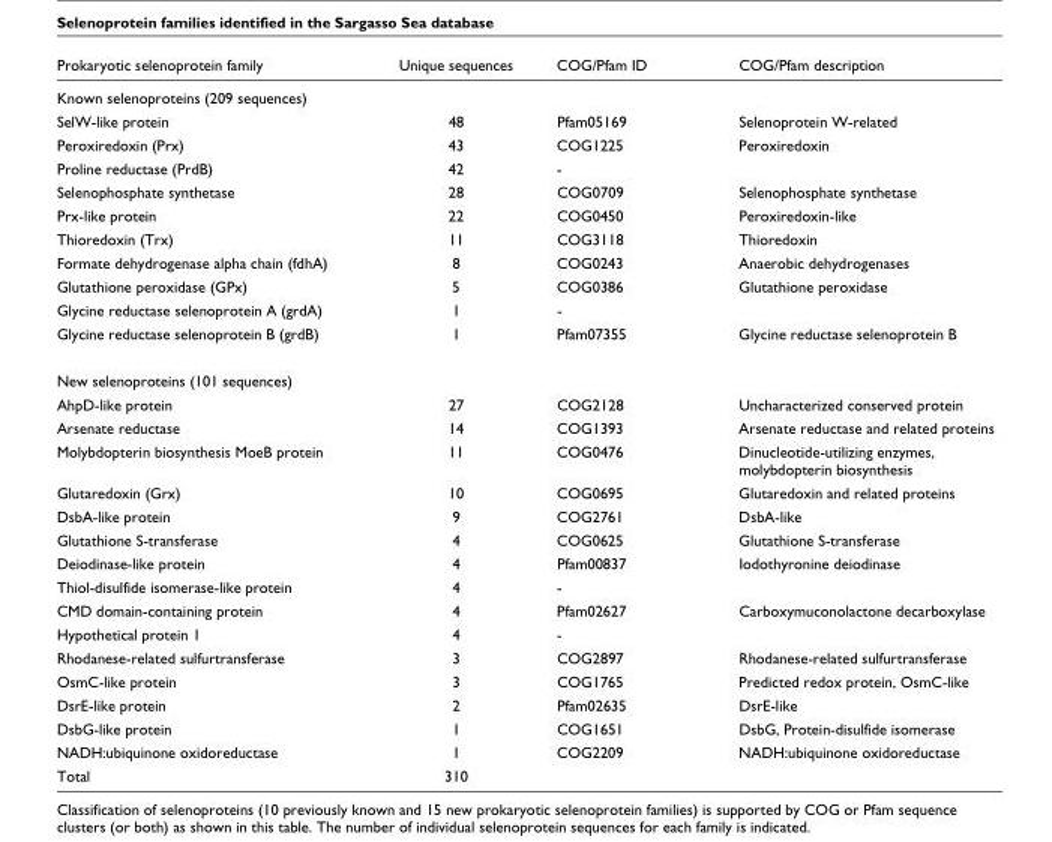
<table><thead><tr><td>Prokaryotic selenoprotein family</td><td>Unique sequences</td><td>COG/Pfam ID</td><td>COG/Pfam description</td></tr></thead><tbody><tr><td colspan="4">Known selenoproteins (209 sequences)</td></tr><tr><td>SelW-like protein</td><td>48</td><td>Pfam05169</td><td>Selenoprotein W-related</td></tr><tr><td>Peroxiredoxin (Prx)</td><td>43</td><td>COG1225</td><td>Peroxiredoxin</td></tr><tr><td>Proline reductase (PrdB)</td><td>42</td><td>-</td><td></td></tr><tr><td>Selenophosphate synthetase</td><td>28</td><td>COG0709</td><td>Selenophosphate synthetase</td></tr><tr><td>Prx-like protein</td><td>22</td><td>COG0450</td><td>Peroxiredoxin-like</td></tr><tr><td>Thioredoxin (Trx)</td><td>11</td><td>COG3118</td><td>Thioredoxin</td></tr><tr><td>Formate dehydrogenase alpha chain (fdhA)</td><td>8</td><td>COG0243</td><td>Anaerobic dehydrogenases</td></tr><tr><td>Glutathione peroxidase (GPx)</td><td>5</td><td>COG0386</td><td>Glutathione peroxidase</td></tr><tr><td>Glycine reductase selenoprotein A (grdA)</td><td>1</td><td>-</td><td></td></tr><tr><td>Glycine reductase selenoprotein B (grdB)</td><td>1</td><td>Pfam07355</td><td>Glycine reductase selenoprotein B</td></tr><tr><td colspan="4">New selenoproteins (101 sequences)</td></tr><tr><td>AhpD-like protein</td><td>27</td><td>COG2128</td><td>Uncharacterized conserved protein</td></tr><tr><td>Arsenate reductase</td><td>14</td><td>COG1393</td><td>Arsenate reductase and related proteins</td></tr><tr><td>Molybdopterin biosynthesis MoeB protein</td><td>11</td><td>COG0476</td><td>Dinucleotide-utilizing enzymes, molybdopterin biosynthesis</td></tr><tr><td>Glutaredoxin (Grx)</td><td>10</td><td>COG0695</td><td>Glutaredoxin and related proteins</td></tr><tr><td>DsbA-like protein</td><td>9</td><td>COG2761</td><td>DsbA-like</td></tr><tr><td>Glutathione S-transferase</td><td>4</td><td>COG0625</td><td>Glutathione S-transferase</td></tr><tr><td>Deiodinase-like protein</td><td>4</td><td>Pfam00837</td><td>Iodothyronine deiodinase</td></tr><tr><td>Thiol-disulfide isomerase-like protein</td><td>4</td><td>-</td><td></td></tr><tr><td>CMD domain-containing protein</td><td>4</td><td>Pfam02627</td><td>Carboxymuconolactone decarboxylase</td></tr><tr><td>Hypothetical protein 1</td><td>4</td><td>-</td><td></td></tr><tr><td>Rhodanese-related sulfurtransferase</td><td>3</td><td>COG2897</td><td>Rhodanese-related sulfurtransferase</td></tr><tr><td>OsmC-like protein</td><td>3</td><td>COG1765</td><td>Predicted redox protein, OsmC-like</td></tr><tr><td>DsrE-like protein</td><td>2</td><td>Pfam02635</td><td>DsrE-like</td></tr><tr><td>DsbG-like protein</td><td>1</td><td>COG1651</td><td>DsbG, Protein-disulfide isomerase</td></tr><tr><td>NADH:ubiquinone oxidoreductase</td><td>1</td><td>COG2209</td><td>NADH:ubiquinone oxidoreductase</td></tr><tr><td>Total</td><td>310</td><td></td><td></td></tr></tbody></table>